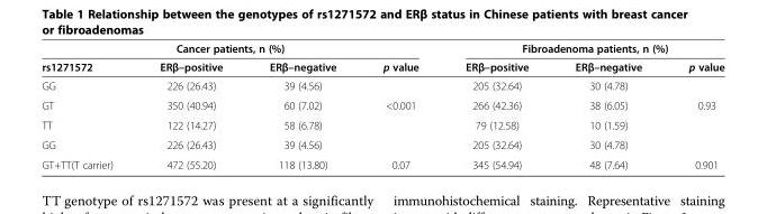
<table><thead><tr><td colspan="4">Cancer patients, n (%)</td><td colspan="3">Fibroadenoma patients, n (%)</td></tr><tr><td>rs1271572</td><td>ERβ–positive</td><td>ERβ–negative</td><td>p value</td><td>ERβ–positive</td><td>ERβ–negative</td><td>p value</td></tr></thead><tbody><tr><td>GG</td><td>226 (26.43)</td><td>39 (4.56)</td><td></td><td>205 (32.64)</td><td>30 (4.78)</td><td></td></tr><tr><td>GT</td><td>350 (40.94)</td><td>60 (7.02)</td><td>&lt;0.001</td><td>266 (42.36)</td><td>38 (6.05)</td><td>0.93</td></tr><tr><td>TT</td><td>122 (14.27)</td><td>58 (6.78)</td><td></td><td>79 (12.58)</td><td>10 (1.59)</td><td></td></tr><tr><td>GG</td><td>226 (26.43)</td><td>39 (4.56)</td><td></td><td>205 (32.64)</td><td>30 (4.78)</td><td></td></tr><tr><td>GT+TT(T carrier)</td><td>472 (55.20)</td><td>118 (13.80)</td><td>0.07</td><td>345 (54.94)</td><td>48 (7.64)</td><td>0.901</td></tr></tbody></table>